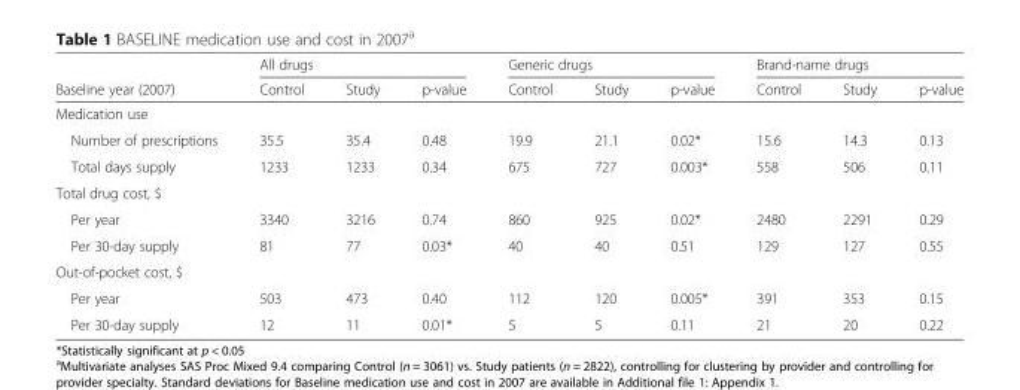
<table><thead><tr><td rowspan="2">Baseline year (2007)</td><td colspan="3">All drugs</td><td colspan="3">Generic drugs</td><td colspan="3">Brand-name drugs</td></tr><tr><td>Control</td><td>Study</td><td>p-value</td><td>Control</td><td>Study</td><td>p-value</td><td>Control</td><td>Study</td><td>p-value</td></tr></thead><tbody><tr><td colspan="10">Medication use</td></tr><tr><td>Number of prescriptions</td><td>35.5</td><td>35.4</td><td>0.48</td><td>19.9</td><td>21.1</td><td>0.02*</td><td>15.6</td><td>14.3</td><td>0.13</td></tr><tr><td>Total days supply</td><td>1233</td><td>1233</td><td>0.34</td><td>675</td><td>727</td><td>0.003*</td><td>558</td><td>506</td><td>0.11</td></tr><tr><td colspan="10">Total drug cost, $</td></tr><tr><td>Per year</td><td>3340</td><td>3216</td><td>0.74</td><td>860</td><td>925</td><td>0.02*</td><td>2480</td><td>2291</td><td>0.29</td></tr><tr><td>Per 30-day supply</td><td>81</td><td>77</td><td>0.03*</td><td>40</td><td>40</td><td>0.51</td><td>129</td><td>127</td><td>0.55</td></tr><tr><td colspan="10">Out-of-pocket cost, $</td></tr><tr><td>Per year</td><td>503</td><td>473</td><td>0.40</td><td>112</td><td>120</td><td>0.005*</td><td>391</td><td>353</td><td>0.15</td></tr><tr><td>Per 30-day supply</td><td>12</td><td>11</td><td>0.01*</td><td>5</td><td>5</td><td>0.11</td><td>21</td><td>20</td><td>0.22</td></tr></tbody></table>